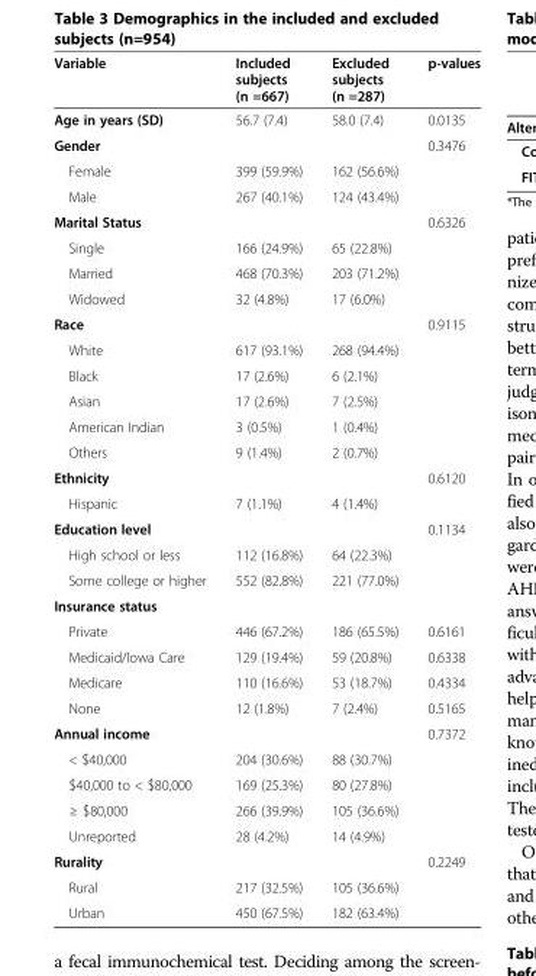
<table><thead><tr><td>Variable</td><td>Included subjects (n =667)</td><td>Excluded subjects (n =287)</td><td>p-values</td></tr></thead><tbody><tr><td>Age in years (SD)</td><td>56.7 (7.4)</td><td>58.0 (7.4)</td><td>0.0135</td></tr><tr><td>Gender</td><td></td><td></td><td>0.3476</td></tr><tr><td>Female</td><td>399 (59.9%)</td><td>162 (56.6%)</td><td></td></tr><tr><td>Male</td><td>267 (40.1%)</td><td>124 (43.4%)</td><td></td></tr><tr><td>Marital Status</td><td></td><td></td><td>0.6326</td></tr><tr><td>Single</td><td>166 (24.9%)</td><td>65 (22.8%)</td><td></td></tr><tr><td>Married</td><td>468 (70.3%)</td><td>203 (71.2%)</td><td></td></tr><tr><td>Widowed</td><td>32 (4.8%)</td><td>17 (6.0%)</td><td></td></tr><tr><td>Race</td><td></td><td></td><td>0.9115</td></tr><tr><td>White</td><td>617 (93.1%)</td><td>268 (94.4%)</td><td></td></tr><tr><td>Black</td><td>17 (2.6%)</td><td>6 (2.1%)</td><td></td></tr><tr><td>Asian</td><td>17 (2.6%)</td><td>7 (2.5%)</td><td></td></tr><tr><td>American Indian</td><td>3 (0.5%)</td><td>1 (0.4%)</td><td></td></tr><tr><td>Others</td><td>9 (1.4%)</td><td>2 (0.7%)</td><td></td></tr><tr><td>Ethnicity</td><td></td><td></td><td>0.6120</td></tr><tr><td>Hispanic</td><td>7 (1.1%)</td><td>4 (1.4%)</td><td></td></tr><tr><td>Education level</td><td></td><td></td><td>0.1134</td></tr><tr><td>High school or less</td><td>112 (16.8%)</td><td>64 (22.3%)</td><td></td></tr><tr><td>Some college or higher</td><td>552 (82.8%)</td><td>221 (77.0%)</td><td></td></tr><tr><td colspan="4">Insurance status</td></tr><tr><td>Private</td><td>446 (67.2%)</td><td>186 (65.5%)</td><td>0.6161</td></tr><tr><td>Medicaid/Iowa Care</td><td>129 (19.4%)</td><td>59 (20.8%)</td><td>0.6338</td></tr><tr><td>Medicare</td><td>110 (16.6%)</td><td>53 (18.7%)</td><td>0.4334</td></tr><tr><td>None</td><td>12 (1.8%)</td><td>7 (2.4%)</td><td>0.5165</td></tr><tr><td>Annual income</td><td></td><td></td><td>0.7372</td></tr><tr><td>&lt; $40,000</td><td>204 (30.6%)</td><td>88 (30.7%)</td><td></td></tr><tr><td>$40,000 to &lt; $80,000</td><td>169 (25.3%)</td><td>80 (27.8%)</td><td></td></tr><tr><td>≥ $80,000</td><td>266 (39.9%)</td><td>105 (36.6%)</td><td></td></tr><tr><td>Unreported</td><td>28 (4.2%)</td><td>14 (4.9%)</td><td></td></tr><tr><td>Rurality</td><td></td><td></td><td>0.2249</td></tr><tr><td>Rural</td><td>217 (32.5%)</td><td>105 (36.6%)</td><td></td></tr><tr><td>Urban</td><td>450 (67.5%)</td><td>182 (63.4%)</td><td></td></tr></tbody></table>